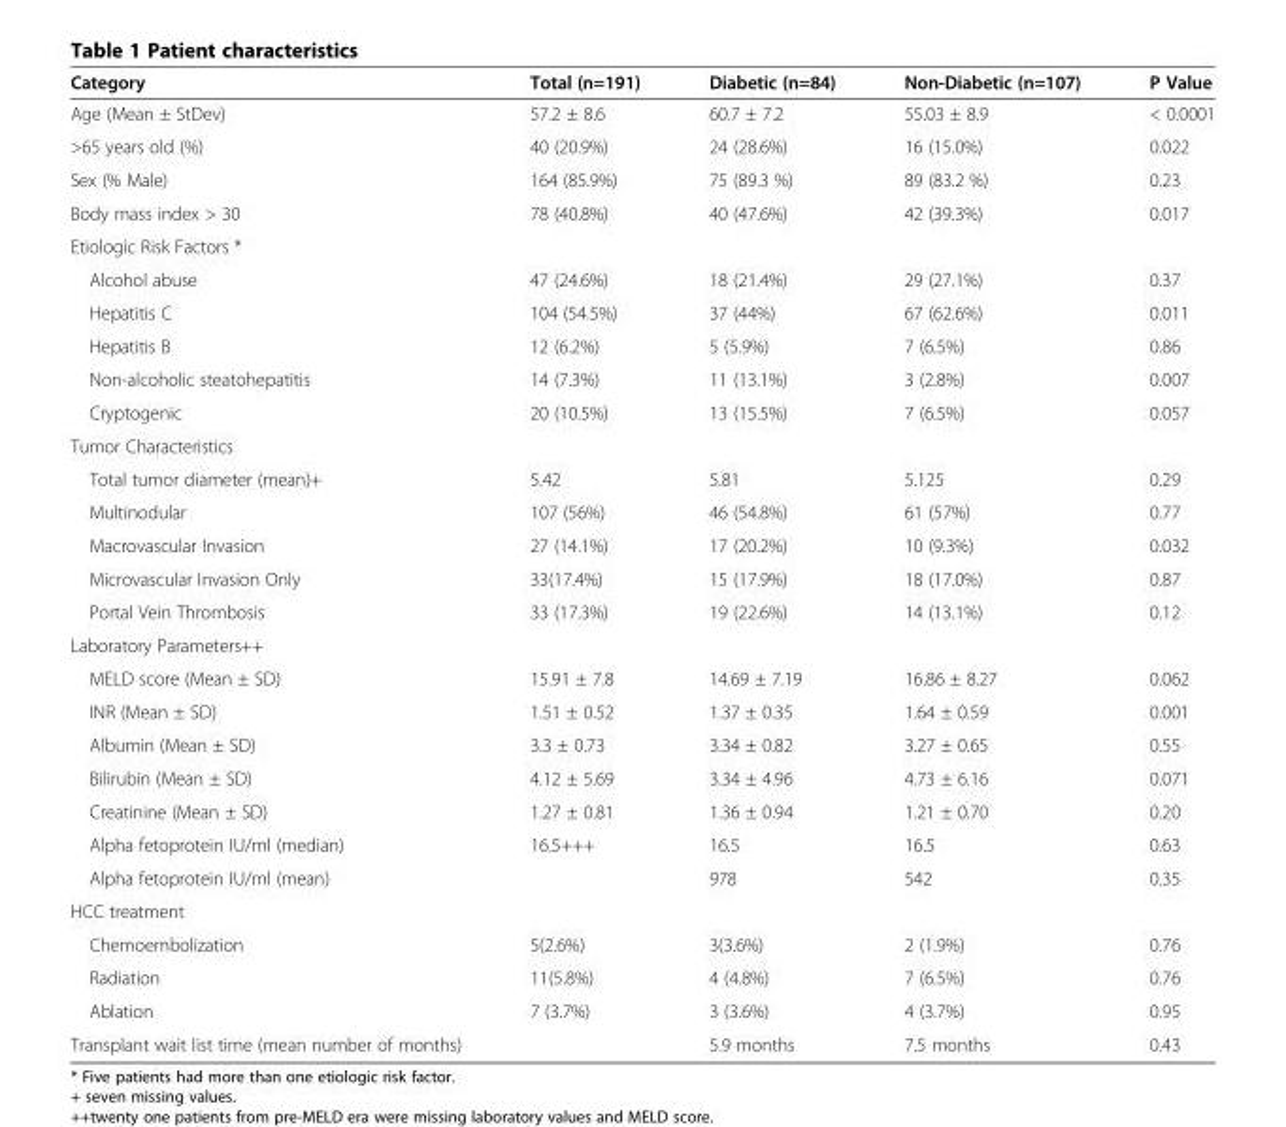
<table><thead><tr><td>Category</td><td>Total (n=191)</td><td>Diabetic (n=84)</td><td>Non-Diabetic (n=107)</td><td>P Value</td></tr></thead><tbody><tr><td>Age (Mean ± StDev)</td><td>57.2 ± 8.6</td><td>60.7 ± 7.2</td><td>55.03 ± 8.9</td><td>&lt; 0.0001</td></tr><tr><td>&gt;65 years old (%)</td><td>40 (20.9%)</td><td>24 (28.6%)</td><td>16 (15.0%)</td><td>0.022</td></tr><tr><td>Sex (% Male)</td><td>164 (85.9%)</td><td>75 (89.3 %)</td><td>89 (83.2 %)</td><td>0.23</td></tr><tr><td>Body mass index &gt; 30</td><td>78 (40.8%)</td><td>40 (47.6%)</td><td>42 (39.3%)</td><td>0.017</td></tr><tr><td colspan="5">Etiologic Risk Factors *</td></tr><tr><td>Alcohol abuse</td><td>47 (24.6%)</td><td>18 (21.4%)</td><td>29 (27.1%)</td><td>0.37</td></tr><tr><td>Hepatitis C</td><td>104 (54.5%)</td><td>37 (44%)</td><td>67 (62.6%)</td><td>0.011</td></tr><tr><td>Hepatitis B</td><td>12 (6.2%)</td><td>5 (5.9%)</td><td>7 (6.5%)</td><td>0.86</td></tr><tr><td>Non-alcoholic steatohepatitis</td><td>14 (7.3%)</td><td>11 (13.1%)</td><td>3 (2.8%)</td><td>0.007</td></tr><tr><td>Cryptogenic</td><td>20 (10.5%)</td><td>13 (15.5%)</td><td>7 (6.5%)</td><td>0.057</td></tr><tr><td colspan="5">Tumor Characteristics</td></tr><tr><td>Total tumor diameter (mean)+</td><td>5.42</td><td>5.81</td><td>5.125</td><td>0.29</td></tr><tr><td>Multinodular</td><td>107 (56%)</td><td>46 (54.8%)</td><td>61 (57%)</td><td>0.77</td></tr><tr><td>Macrovascular Invasion</td><td>27 (14.1%)</td><td>17 (20.2%)</td><td>10 (9.3%)</td><td>0.032</td></tr><tr><td>Microvascular Invasion Only</td><td>33(17.4%)</td><td>15 (17.9%)</td><td>18 (17.0%)</td><td>0.87</td></tr><tr><td>Portal Vein Thrombosis</td><td>33 (17.3%)</td><td>19 (22.6%)</td><td>14 (13.1%)</td><td>0.12</td></tr><tr><td colspan="5">Laboratory Parameters++</td></tr><tr><td>MELD score (Mean ± SD)</td><td>15.91 ± 7.8</td><td>14.69 ± 7.19</td><td>16.86 ± 8.27</td><td>0.062</td></tr><tr><td>INR (Mean ± SD)</td><td>1.51 ± 0.52</td><td>1.37 ± 0.35</td><td>1.64 ± 0.59</td><td>0.001</td></tr><tr><td>Albumin (Mean ± SD)</td><td>3.3 ± 0.73</td><td>3.34 ± 0.82</td><td>3.27 ± 0.65</td><td>0.55</td></tr><tr><td>Bilirubin (Mean ± SD)</td><td>4.12 ± 5.69</td><td>3.34 ± 4.96</td><td>4.73 ± 6.16</td><td>0.071</td></tr><tr><td>Creatinine (Mean ± SD)</td><td>1.27 ± 0.81</td><td>1.36 ± 0.94</td><td>1.21 ± 0.70</td><td>0.20</td></tr><tr><td>Alpha fetoprotein IU/ml (median)</td><td>16.5+++</td><td>16.5</td><td>16.5</td><td>0.63</td></tr><tr><td>Alpha fetoprotein IU/ml (mean)</td><td></td><td>978</td><td>542</td><td>0.35</td></tr><tr><td colspan="5">HCC treatment</td></tr><tr><td>Chemoembolization</td><td>5(2.6%)</td><td>3(3.6%)</td><td>2 (1.9%)</td><td>0.76</td></tr><tr><td>Radiation</td><td>11(5.8%)</td><td>4 (4.8%)</td><td>7 (6.5%)</td><td>0.76</td></tr><tr><td>Ablation</td><td>7 (3.7%)</td><td>3 (3.6%)</td><td>4 (3.7%)</td><td>0.95</td></tr><tr><td>Transplant wait list time (mean number of months)</td><td></td><td>5.9 months</td><td>7.5 months</td><td>0.43</td></tr></tbody></table>